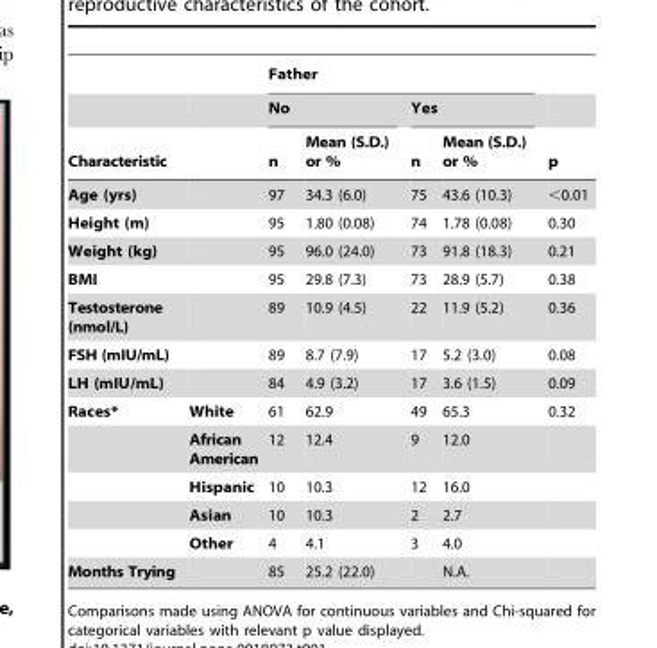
<table><thead><tr><td rowspan="3">Characteristic</td><td rowspan="3"></td><td colspan="4">Father</td><td rowspan="3">p</td></tr><tr><td colspan="2">No</td><td colspan="2">Yes</td></tr><tr><td>n</td><td>Mean (S.D.) or %</td><td>n</td><td>Mean (S.D.) or %</td></tr></thead><tbody><tr><td>Age (yrs)</td><td></td><td>97</td><td>34.3 (6.0)</td><td>75</td><td>43.6 (10.3)</td><td>&lt;0.01</td></tr><tr><td>Height (m)</td><td></td><td>95</td><td>1.80 (0.08)</td><td>74</td><td>1.78 (0.08)</td><td>0.30</td></tr><tr><td>Weight (kg)</td><td></td><td>95</td><td>96.0 (24.0)</td><td>73</td><td>91.8 (18.3)</td><td>0.21</td></tr><tr><td>BMI</td><td></td><td>95</td><td>29.8 (7.3)</td><td>73</td><td>28.9 (5.7)</td><td>0.38</td></tr><tr><td>Testosterone (nmol/L)</td><td></td><td>89</td><td>10.9 (4.5)</td><td>22</td><td>11.9 (5.2)</td><td>0.36</td></tr><tr><td>FSH (mIU/mL)</td><td></td><td>89</td><td>8.7 (7.9)</td><td>17</td><td>5.2 (3.0)</td><td>0.08</td></tr><tr><td>LH (mIU/mL)</td><td></td><td>84</td><td>4.9 (3.2)</td><td>17</td><td>3.6 (1.5)</td><td>0.09</td></tr><tr><td rowspan="5">Races*</td><td>White</td><td>61</td><td>62.9</td><td>49</td><td>65.3</td><td>0.32</td></tr><tr><td>African American</td><td>12</td><td>12.4</td><td>9</td><td>12.0</td><td></td></tr><tr><td>Hispanic</td><td>10</td><td>10.3</td><td>12</td><td>16.0</td><td></td></tr><tr><td>Asian</td><td>10</td><td>10.3</td><td>2</td><td>2.7</td><td></td></tr><tr><td>Other</td><td>4</td><td>4.1</td><td>3</td><td>4.0</td><td></td></tr><tr><td>Months Trying</td><td></td><td>85</td><td>25.2 (22.0)</td><td></td><td>N.A.</td><td></td></tr></tbody></table>